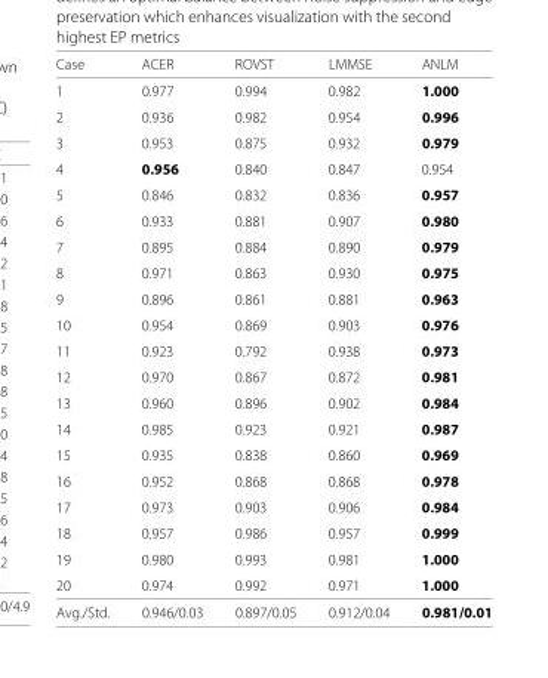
<table><thead><tr><td>Case</td><td>ACER</td><td>ROVST</td><td>LMMSE</td><td>ANLM</td></tr></thead><tbody><tr><td>1</td><td>0.977</td><td>0.994</td><td>0.982</td><td>1.000</td></tr><tr><td>2</td><td>0.936</td><td>0.982</td><td>0.954</td><td>0.996</td></tr><tr><td>3</td><td>0.953</td><td>0.875</td><td>0.932</td><td>0.979</td></tr><tr><td>4</td><td>0.956</td><td>0.840</td><td>0.847</td><td>0.954</td></tr><tr><td>5</td><td>0.846</td><td>0.832</td><td>0.836</td><td>0.957</td></tr><tr><td>6</td><td>0.933</td><td>0.881</td><td>0.907</td><td>0.980</td></tr><tr><td>7</td><td>0.895</td><td>0.884</td><td>0.890</td><td>0.979</td></tr><tr><td>8</td><td>0.971</td><td>0.863</td><td>0.930</td><td>0.975</td></tr><tr><td>9</td><td>0.896</td><td>0.861</td><td>0.881</td><td>0.963</td></tr><tr><td>10</td><td>0.954</td><td>0.869</td><td>0.903</td><td>0.976</td></tr><tr><td>11</td><td>0.923</td><td>0.792</td><td>0.938</td><td>0.973</td></tr><tr><td>12</td><td>0.970</td><td>0.867</td><td>0.872</td><td>0.981</td></tr><tr><td>13</td><td>0.960</td><td>0.896</td><td>0.902</td><td>0.984</td></tr><tr><td>14</td><td>0.985</td><td>0.923</td><td>0.921</td><td>0.987</td></tr><tr><td>15</td><td>0.935</td><td>0.838</td><td>0.860</td><td>0.969</td></tr><tr><td>16</td><td>0.952</td><td>0.868</td><td>0.868</td><td>0.978</td></tr><tr><td>17</td><td>0.973</td><td>0.903</td><td>0.906</td><td>0.984</td></tr><tr><td>18</td><td>0.957</td><td>0.986</td><td>0.957</td><td>0.999</td></tr><tr><td>19</td><td>0.980</td><td>0.993</td><td>0.981</td><td>1.000</td></tr><tr><td>20</td><td>0.974</td><td>0.992</td><td>0.971</td><td>1.000</td></tr><tr><td>Avg./Std.</td><td>0.946/0.03</td><td>0.897/0.05</td><td>0.912/0.04</td><td>0.981/0.01</td></tr></tbody></table>